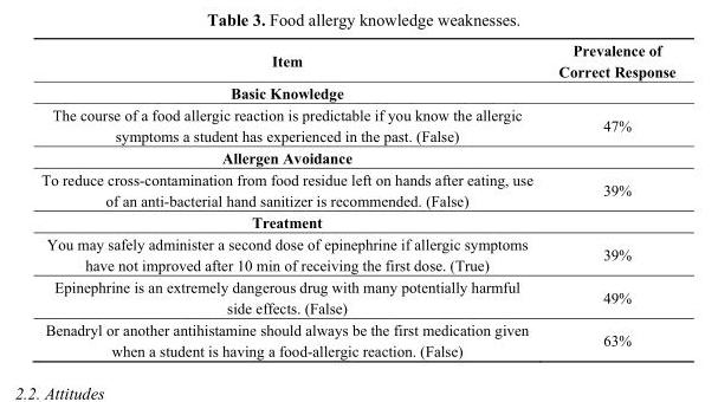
<table><thead><tr><td>Item</td><td>Prevalence of Correct Response</td></tr></thead><tbody><tr><td colspan="2">Basic Knowledge</td></tr><tr><td>The course of a food allergic reaction is predictable if you know the allergic symptoms a student has experienced in the past. (False)</td><td>47%</td></tr><tr><td colspan="2">Allergen Avoidance</td></tr><tr><td>To reduce cross-contamination from food residue left on hands after eating, use of an anti-bacterial hand sanitizer is recommended. (False)</td><td>39%</td></tr><tr><td colspan="2">Treatment</td></tr><tr><td>You may safely administer a second dose of epinephrine if allergic symptoms have not improved after 10 min of receiving the first dose. (True)</td><td>39%</td></tr><tr><td>Epinephrine is an extremely dangerous drug with many potentially harmful side effects. (False)</td><td>49%</td></tr><tr><td>Benadryl or another antihistamine should always be the first medication given when a student is having a food-allergic reaction. (False)</td><td>63%</td></tr></tbody></table>